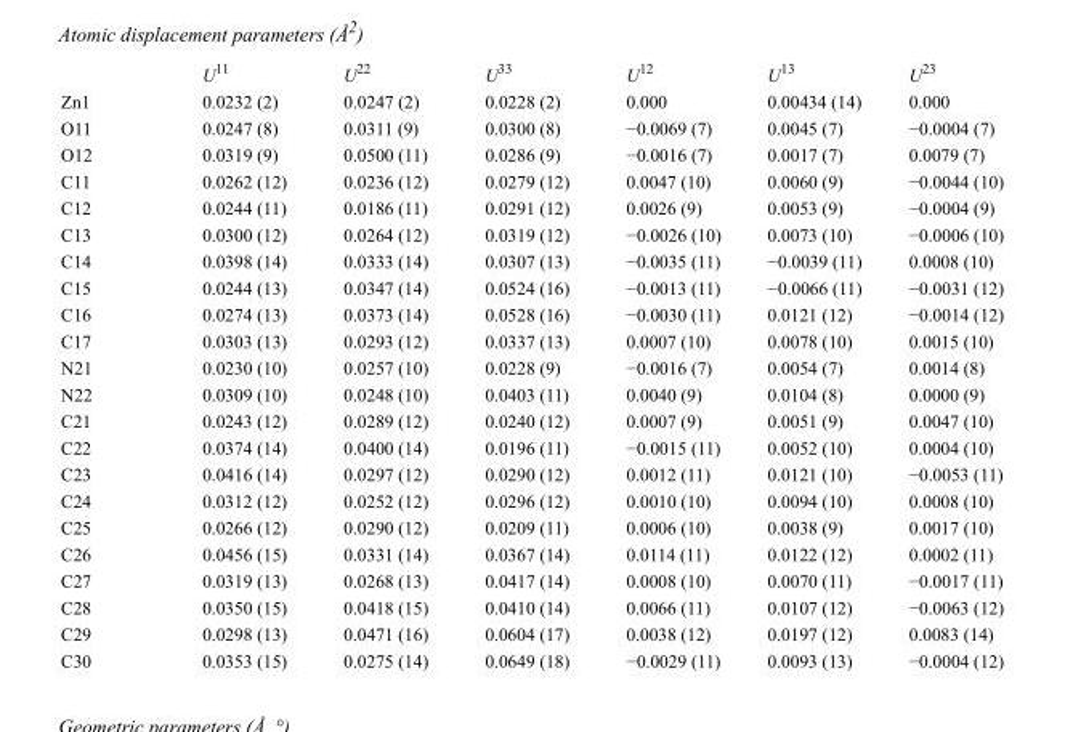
<table><thead><tr><td></td><td>U<sup>11</sup></td><td>U<sup>22</sup></td><td>U<sup>33</sup></td><td>U<sup>12</sup></td><td>U<sup>13</sup></td><td>U<sup>23</sup></td></tr></thead><tbody><tr><td>Zn1</td><td>0.0232 (2)</td><td>0.0247 (2)</td><td>0.0228 (2)</td><td>0.000</td><td>0.00434 (14)</td><td>0.000</td></tr><tr><td>O11</td><td>0.0247 (8)</td><td>0.0311 (9)</td><td>0.0300 (8)</td><td>−0.0069 (7)</td><td>0.0045 (7)</td><td>−0.0004 (7)</td></tr><tr><td>O12</td><td>0.0319 (9)</td><td>0.0500 (11)</td><td>0.0286 (9)</td><td>−0.0016 (7)</td><td>0.0017 (7)</td><td>0.0079 (7)</td></tr><tr><td>C11</td><td>0.0262 (12)</td><td>0.0236 (12)</td><td>0.0279 (12)</td><td>0.0047 (10)</td><td>0.0060 (9)</td><td>−0.0044 (10)</td></tr><tr><td>C12</td><td>0.0244 (11)</td><td>0.0186 (11)</td><td>0.0291 (12)</td><td>0.0026 (9)</td><td>0.0053 (9)</td><td>−0.0004 (9)</td></tr><tr><td>C13</td><td>0.0300 (12)</td><td>0.0264 (12)</td><td>0.0319 (12)</td><td>−0.0026 (10)</td><td>0.0073 (10)</td><td>−0.0006 (10)</td></tr><tr><td>C14</td><td>0.0398 (14)</td><td>0.0333 (14)</td><td>0.0307 (13)</td><td>−0.0035 (11)</td><td>−0.0039 (11)</td><td>0.0008 (10)</td></tr><tr><td>C15</td><td>0.0244 (13)</td><td>0.0347 (14)</td><td>0.0524 (16)</td><td>−0.0013 (11)</td><td>−0.0066 (11)</td><td>−0.0031 (12)</td></tr><tr><td>C16</td><td>0.0274 (13)</td><td>0.0373 (14)</td><td>0.0528 (16)</td><td>−0.0030 (11)</td><td>0.0121 (12)</td><td>−0.0014 (12)</td></tr><tr><td>C17</td><td>0.0303 (13)</td><td>0.0293 (12)</td><td>0.0337 (13)</td><td>0.0007 (10)</td><td>0.0078 (10)</td><td>0.0015 (10)</td></tr><tr><td>N21</td><td>0.0230 (10)</td><td>0.0257 (10)</td><td>0.0228 (9)</td><td>−0.0016 (7)</td><td>0.0054 (7)</td><td>0.0014 (8)</td></tr><tr><td>N22</td><td>0.0309 (10)</td><td>0.0248 (10)</td><td>0.0403 (11)</td><td>0.0040 (9)</td><td>0.0104 (8)</td><td>0.0000 (9)</td></tr><tr><td>C21</td><td>0.0243 (12)</td><td>0.0289 (12)</td><td>0.0240 (12)</td><td>0.0007 (9)</td><td>0.0051 (9)</td><td>0.0047 (10)</td></tr><tr><td>C22</td><td>0.0374 (14)</td><td>0.0400 (14)</td><td>0.0196 (11)</td><td>−0.0015 (11)</td><td>0.0052 (10)</td><td>0.0004 (10)</td></tr><tr><td>C23</td><td>0.0416 (14)</td><td>0.0297 (12)</td><td>0.0290 (12)</td><td>0.0012 (11)</td><td>0.0121 (10)</td><td>−0.0053 (11)</td></tr><tr><td>C24</td><td>0.0312 (12)</td><td>0.0252 (12)</td><td>0.0296 (12)</td><td>0.0010 (10)</td><td>0.0094 (10)</td><td>0.0008 (10)</td></tr><tr><td>C25</td><td>0.0266 (12)</td><td>0.0290 (12)</td><td>0.0209 (11)</td><td>0.0006 (10)</td><td>0.0038 (9)</td><td>0.0017 (10)</td></tr><tr><td>C26</td><td>0.0456 (15)</td><td>0.0331 (14)</td><td>0.0367 (14)</td><td>0.0114 (11)</td><td>0.0122 (12)</td><td>0.0002 (11)</td></tr><tr><td>C27</td><td>0.0319 (13)</td><td>0.0268 (13)</td><td>0.0417 (14)</td><td>0.0008 (10)</td><td>0.0070 (11)</td><td>−0.0017 (11)</td></tr><tr><td>C28</td><td>0.0350 (15)</td><td>0.0418 (15)</td><td>0.0410 (14)</td><td>0.0066 (11)</td><td>0.0107 (12)</td><td>−0.0063 (12)</td></tr><tr><td>C29</td><td>0.0298 (13)</td><td>0.0471 (16)</td><td>0.0604 (17)</td><td>0.0038 (12)</td><td>0.0197 (12)</td><td>0.0083 (14)</td></tr><tr><td>C30</td><td>0.0353 (15)</td><td>0.0275 (14)</td><td>0.0649 (18)</td><td>−0.0029 (11)</td><td>0.0093 (13)</td><td>−0.0004 (12)</td></tr></tbody></table>